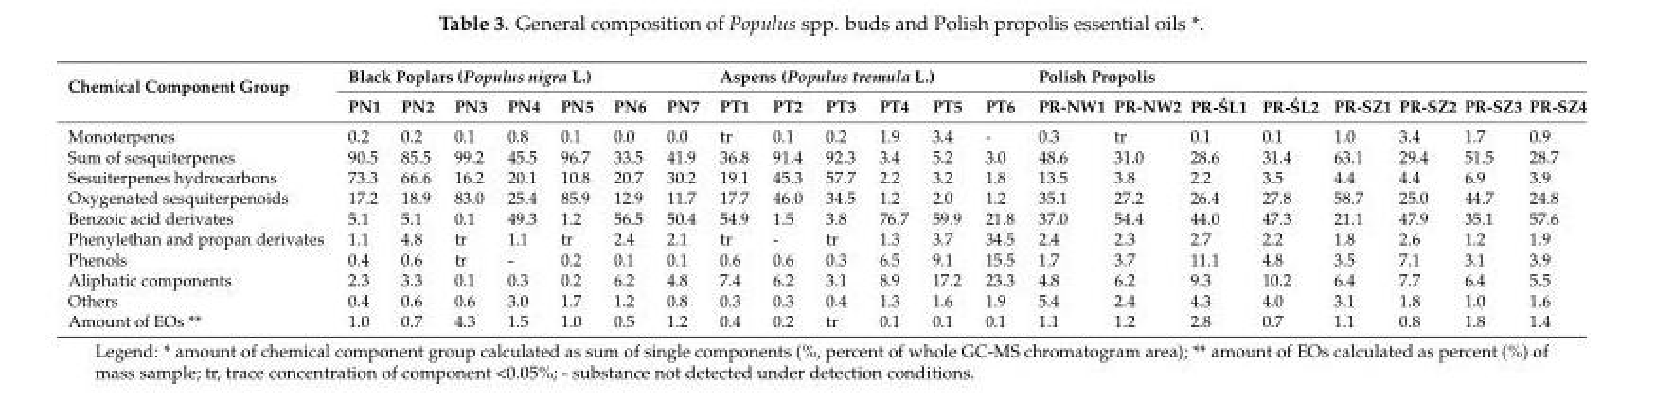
<table><thead><tr><td rowspan="2">Chemical Component Group</td><td colspan="7">Black Poplars (Populus nigra L.)</td><td colspan="6">Aspens (Populus tremula L.)</td><td colspan="8">Polish Propolis</td></tr><tr><td>PN1</td><td>PN2</td><td>PN3</td><td>PN4</td><td>PN5</td><td>PN6</td><td>PN7</td><td>PT1</td><td>PT2</td><td>PT3</td><td>PT4</td><td>PT5</td><td>PT6</td><td>PR-NW1</td><td>PR-NW2</td><td>PR-´SL1</td><td>PR-´SL2</td><td>PR-SZ1</td><td>PR-SZ2</td><td>PR-SZ3</td><td>PR-SZ4</td></tr></thead><tbody><tr><td>Monoterpenes</td><td>0.2</td><td>0.2</td><td>0.1</td><td>0.8</td><td>0.1</td><td>0.0</td><td>0.0</td><td>tr</td><td>0.1</td><td>0.2</td><td>1.9</td><td>3.4</td><td>-</td><td>0.3</td><td>tr</td><td>0.1</td><td>0.1</td><td>1.0</td><td>3.4</td><td>1.7</td><td>0.9</td></tr><tr><td>Sum of sesquiterpenes</td><td>90.5</td><td>85.5</td><td>99.2</td><td>45.5</td><td>96.7</td><td>33.5</td><td>41.9</td><td>36.8</td><td>91.4</td><td>92.3</td><td>3.4</td><td>5.2</td><td>3.0</td><td>48.6</td><td>31.0</td><td>28.6</td><td>31.4</td><td>63.1</td><td>29.4</td><td>51.5</td><td>28.7</td></tr><tr><td>Sesuiterpenes hydrocarbons</td><td>73.3</td><td>66.6</td><td>16.2</td><td>20.1</td><td>10.8</td><td>20.7</td><td>30.2</td><td>19.1</td><td>45.3</td><td>57.7</td><td>2.2</td><td>3.2</td><td>1.8</td><td>13.5</td><td>3.8</td><td>2.2</td><td>3.5</td><td>4.4</td><td>4.4</td><td>6.9</td><td>3.9</td></tr><tr><td>Oxygenated sesquiterpenoids</td><td>17.2</td><td>18.9</td><td>83.0</td><td>25.4</td><td>85.9</td><td>12.9</td><td>11.7</td><td>17.7</td><td>46.0</td><td>34.5</td><td>1.2</td><td>2.0</td><td>1.2</td><td>35.1</td><td>27.2</td><td>26.4</td><td>27.8</td><td>58.7</td><td>25.0</td><td>44.7</td><td>24.8</td></tr><tr><td>Benzoic acid derivates</td><td>5.1</td><td>5.1</td><td>0.1</td><td>49.3</td><td>1.2</td><td>56.5</td><td>50.4</td><td>54.9</td><td>1.5</td><td>3.8</td><td>76.7</td><td>59.9</td><td>21.8</td><td>37.0</td><td>54.4</td><td>44.0</td><td>47.3</td><td>21.1</td><td>47.9</td><td>35.1</td><td>57.6</td></tr><tr><td>Phenylethan and propan derivates</td><td>1.1</td><td>4.8</td><td>tr</td><td>1.1</td><td>tr</td><td>2.4</td><td>2.1</td><td>tr</td><td>-</td><td>tr</td><td>1.3</td><td>3.7</td><td>34.5</td><td>2.4</td><td>2.3</td><td>2.7</td><td>2.2</td><td>1.8</td><td>2.6</td><td>1.2</td><td>1.9</td></tr><tr><td>Phenols</td><td>0.4</td><td>0.6</td><td>tr</td><td>-</td><td>0.2</td><td>0.1</td><td>0.1</td><td>0.6</td><td>0.6</td><td>0.3</td><td>6.5</td><td>9.1</td><td>15.5</td><td>1.7</td><td>3.7</td><td>11.1</td><td>4.8</td><td>3.5</td><td>7.1</td><td>3.1</td><td>3.9</td></tr><tr><td>Aliphatic components</td><td>2.3</td><td>3.3</td><td>0.1</td><td>0.3</td><td>0.2</td><td>6.2</td><td>4.8</td><td>7.4</td><td>6.2</td><td>3.1</td><td>8.9</td><td>17.2</td><td>23.3</td><td>4.8</td><td>6.2</td><td>9.3</td><td>10.2</td><td>6.4</td><td>7.7</td><td>6.4</td><td>5.5</td></tr><tr><td>Others</td><td>0.4</td><td>0.6</td><td>0.6</td><td>3.0</td><td>1.7</td><td>1.2</td><td>0.8</td><td>0.3</td><td>0.3</td><td>0.4</td><td>1.3</td><td>1.6</td><td>1.9</td><td>5.4</td><td>2.4</td><td>4.3</td><td>4.0</td><td>3.1</td><td>1.8</td><td>1.0</td><td>1.6</td></tr><tr><td>Amount of EOs **</td><td>1.0</td><td>0.7</td><td>4.3</td><td>1.5</td><td>1.0</td><td>0.5</td><td>1.2</td><td>0.4</td><td>0.2</td><td>tr</td><td>0.1</td><td>0.1</td><td>0.1</td><td>1.1</td><td>1.2</td><td>2.8</td><td>0.7</td><td>1.1</td><td>0.8</td><td>1.8</td><td>1.4</td></tr></tbody></table>